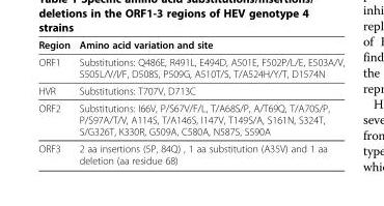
<table><thead><tr><td>Region</td><td>Amino acid variation and site</td></tr></thead><tbody><tr><td>ORF1</td><td>Substitutions: Q486E, R491L, E494D, A501E, F502P/L/E, E503A/V, S505L/V/I/F, D508S, P509G, A510T/S, T/A524H/Y/T, D1574N</td></tr><tr><td>HVR</td><td>Substitutions: T707V, D713C</td></tr><tr><td>ORF2</td><td>Substitutions: I66V, P/S67V/F/L, T/A68S/P, A/T69Q, T/A70S/P, P/S97A/T/V, A114S, T/A146S, I147V, T149S/A, S161N, S324T, S/G326T, K330R, G509A, C580A, N587S, S590A</td></tr><tr><td>ORF3</td><td>2 aa insertions (5P, 84Q) , 1 aa substitution (A35V) and 1 aa deletion (aa residue 68)</td></tr></tbody></table>